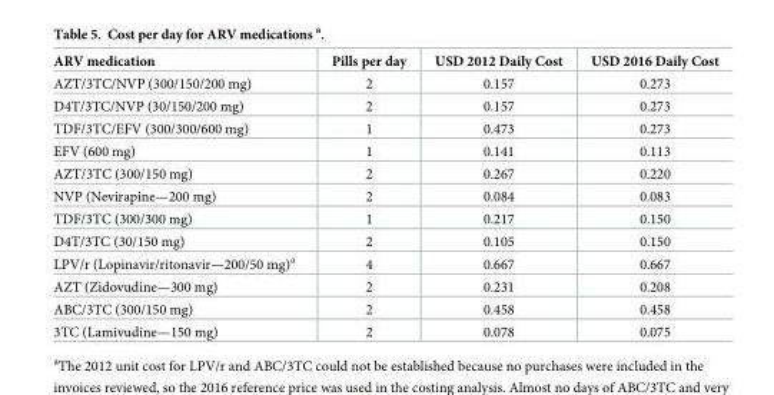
<table><thead><tr><td>ARV medication</td><td>Pills per day</td><td>USD 2012 Daily Cost</td><td>USD 2016 Daily Cost</td></tr></thead><tbody><tr><td>AZT/3TC/NVP (300/150/200 mg)</td><td>2</td><td>0.157</td><td>0.273</td></tr><tr><td>D4T/3TC/NVP (30/150/200 mg)</td><td>2</td><td>0.157</td><td>0.273</td></tr><tr><td>TDF/3TC/EFV (300/300/600 mg)</td><td>1</td><td>0.473</td><td>0.273</td></tr><tr><td>EFV (600 mg)</td><td>1</td><td>0.141</td><td>0.113</td></tr><tr><td>AZT/3TC (300/150 mg)</td><td>2</td><td>0.267</td><td>0.220</td></tr><tr><td>NVP (Nevirapine—200 mg)</td><td>2</td><td>0.084</td><td>0.083</td></tr><tr><td>TDF/3TC (300/300 mg)</td><td>1</td><td>0.217</td><td>0.150</td></tr><tr><td>D4T/3TC (30/150 mg)</td><td>2</td><td>0.105</td><td>0.150</td></tr><tr><td>LPV/r (Lopinavir/ritonavir—200/50 mg)<sup>a</sup></td><td>4</td><td>0.667</td><td>0.667</td></tr><tr><td>AZT (Zidovudine—300 mg)</td><td>2</td><td>0.231</td><td>0.208</td></tr><tr><td>ABC/3TC (300/150 mg)</td><td>2</td><td>0.458</td><td>0.458</td></tr><tr><td>3TC (Lamivudine—150 mg)</td><td>2</td><td>0.078</td><td>0.075</td></tr></tbody></table>